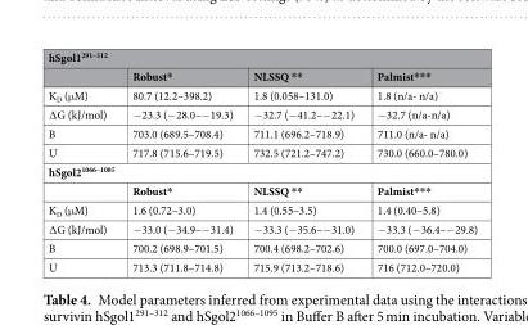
<table><thead><tr><td colspan="4">hSgol1<sup>291–312</sup></td></tr><tr><td></td><td>Robust*</td><td>NLSSQ **</td><td>Palmist***</td></tr></thead><tbody><tr><td>K<sub>D</sub> (μM)</td><td>80.7 (12.2–398.2)</td><td>1.8 (0.058–131.0)</td><td>1.8 (n/a- n/a)</td></tr><tr><td>∆G (kJ/mol)</td><td>−23.3 (−28.0–−19.3)</td><td>−32.7 (−41.2–−22.1)</td><td>−32.7 (n/a-n/a)</td></tr><tr><td>B</td><td>703.0 (689.5–708.4)</td><td>711.1 (696.2–718.9)</td><td>711.0 (n/a- n/a)</td></tr><tr><td>U</td><td>717.8 (715.6–719.5)</td><td>732.5 (721.2–747.2)</td><td>730.0 (660.0–780.0)</td></tr><tr><td colspan="4">hSgol2<sup>1066–1085</sup></td></tr><tr><td></td><td>Robust*</td><td>NLSSQ **</td><td>Palmist***</td></tr><tr><td>K<sub>D</sub> (μM)</td><td>1.6 (0.72–3.0)</td><td>1.4 (0.55–3.5)</td><td>1.4 (0.40–5.8)</td></tr><tr><td>∆G (kJ/mol)</td><td>−33.0 (−34.9–−31.4)</td><td>−33.3 (−35.6–−31.0)</td><td>−33.3 (−36.4–−29.8)</td></tr><tr><td>B</td><td>700.2 (698.9–701.5)</td><td>700.4 (698.2–702.6)</td><td>700.0 (697.0–704.0)</td></tr><tr><td>U</td><td>713.3 (711.8–714.8)</td><td>715.9 (713.2–718.6)</td><td>716 (712.0–720.0)</td></tr></tbody></table>